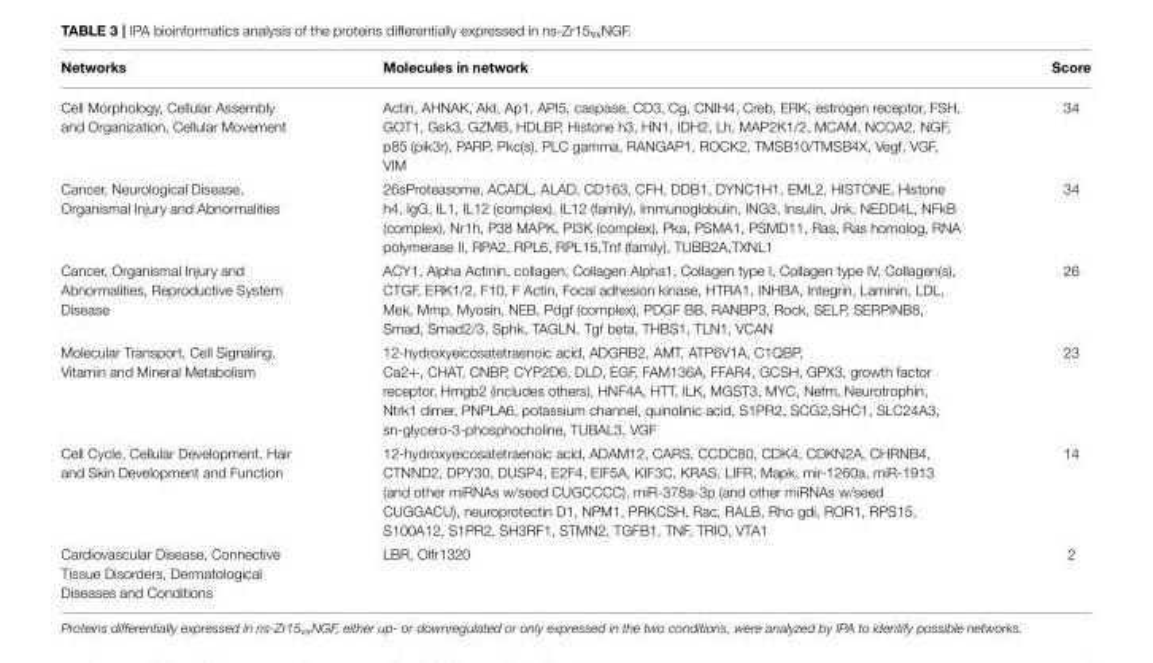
<table><thead><tr><td>Networks</td><td>Molecules in network</td><td>Score</td></tr></thead><tbody><tr><td>Cell Morphology, Cellular Assembly and Organization, Cellular Movement</td><td>Actin, AHNAK, Akt, Ap1, API5, caspase, CD3, Cg, CNIH4, Creb, ERK, estrogen receptor, FSH, GOT1, Gsk3, GZMB, HDLBP, Histone h3, HN1, IDH2, Lh, MAP2K1/2, MCAM, NCOA2, NGF, p85 (pik3r), PARP, Pkc(s), PLC gamma, RANGAP1, ROCK2, TMSB10/TMSB4X, Vegf, VGF, VIM</td><td>34</td></tr><tr><td>Cancer, Neurological Disease, Organismal Injury and Abnormalities</td><td>26sProteasome, ACADL, ALAD, CD163, CFH, DDB1, DYNC1H1, EML2, HISTONE, Histone h4, IgG, IL1, IL12 (complex), IL12 (family), Immunoglobulin, ING3, Insulin, Jnk, NEDD4L, NFkB (complex), Nr1h, P38 MAPK, PI3K (complex), Pka, PSMA1, PSMD11, Ras, Ras homolog, RNA polymerase II, RPA2, RPL6, RPL15,Tnf (family), TUBB2A,TXNL1</td><td>34</td></tr><tr><td>Cancer, Organismal Injury and Abnormalities, Reproductive System Disease</td><td>ACY1, Alpha Actinin, collagen, Collagen Alpha1, Collagen type I, Collagen type IV, Collagen(s), CTGF, ERK1/2, F10, F Actin, Focal adhesion kinase, HTRA1, INHBA, Integrin, Laminin, LDL, Mek, Mmp, Myosin, NEB, Pdgf (complex), PDGF BB, RANBP3, Rock, SELP, SERPINB8, Smad, Smad2/3, Sphk, TAGLN, Tgf beta, THBS1, TLN1, VCAN</td><td>26</td></tr><tr><td>Molecular Transport, Cell Signaling, Vitamin and Mineral Metabolism</td><td>12-hydroxyeicosatetraenoic acid, ADGRB2, AMT, ATP6V1A, C1QBP, Ca2+, CHAT, CNBP, CYP2D6, DLD, EGF, FAM136A, FFAR4, GCSH, GPX3, growth factor receptor, Hmgb2 (includes others), HNF4A, HTT, ILK, MGST3, MYC, Nefm, Neurotrophin, Ntrk1 dimer, PNPLA6, potassium channel, quinolinic acid, S1PR2, SCG2,SHC1, SLC24A3, sn-glycero-3-phosphocholine, TUBAL3, VGF</td><td>23</td></tr><tr><td>Cell Cycle, Cellular Development, Hair and Skin Development and Function</td><td>12-hydroxyeicosatetraenoic acid, ADAM12, CARS, CCDC80, CDK4, CDKN2A, CHRNB4, CTNND2, DPY30, DUSP4, E2F4, EIF5A, KIF3C, KRAS, LIFR, Mapk, mir-1260a, miR-1913 (and other miRNAs w/seed CUGCCCC), miR-378a-3p (and other miRNAs w/seed CUGGACU), neuroprotectin D1, NPM1, PRKCSH, Rac, RALB, Rho gdi, ROR1, RPS15, S100A12, S1PR2, SH3RF1, STMN2, TGFB1, TNF, TRIO, VTA1</td><td>14</td></tr><tr><td>Cardiovascular Disease, Connective Tissue Disorders, Dermatological Diseases and Conditions</td><td>LBR, Olfr1320</td><td>2</td></tr></tbody></table>